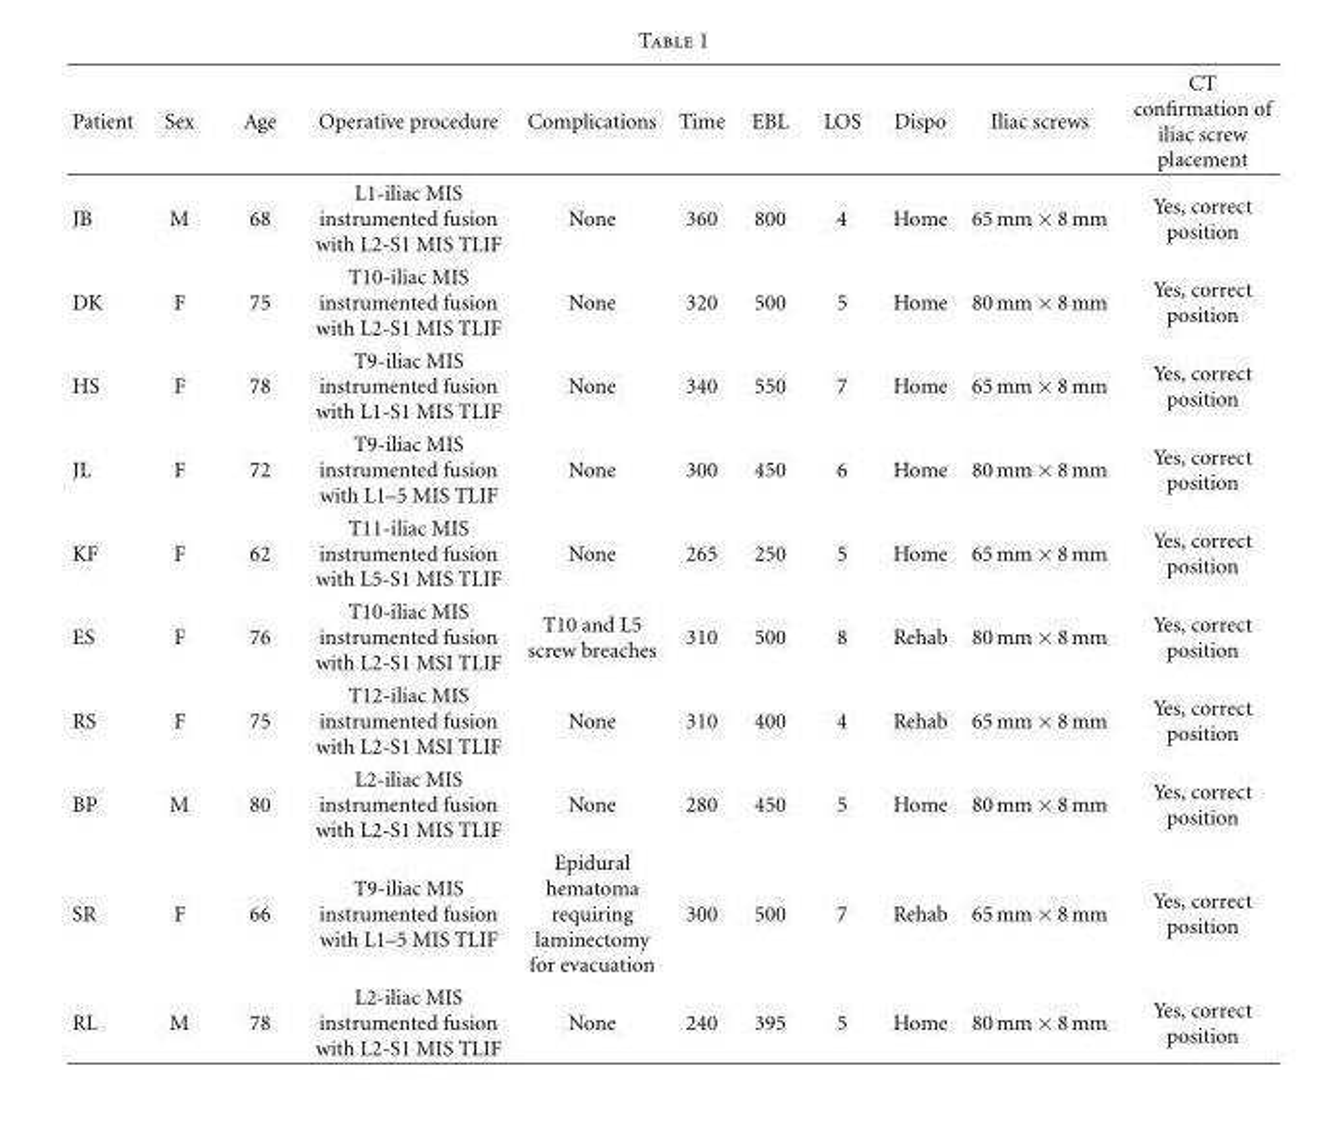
<table><thead><tr><td>Patient</td><td>Sex</td><td>Age</td><td>Operative procedure</td><td>Complications</td><td>Time</td><td>EBL</td><td>LOS</td><td>Dispo</td><td>Iliac screws</td><td>CT confirmation of iliac screw placement</td></tr></thead><tbody><tr><td>JB</td><td>M</td><td>68</td><td>L1-iliac MIS instrumented fusion with L2-S1 MIS TLIF</td><td>None</td><td>360</td><td>800</td><td>4</td><td>Home</td><td>65 mm × 8 mm</td><td>Yes, correct position</td></tr><tr><td>DK</td><td>F</td><td>75</td><td>T10-iliac MIS instrumented fusion with L2-S1 MIS TLIF</td><td>None</td><td>320</td><td>500</td><td>5</td><td>Home</td><td>80 mm × 8 mm</td><td>Yes, correct position</td></tr><tr><td>HS</td><td>F</td><td>78</td><td>T9-iliac MIS instrumented fusion with L1-S1 MIS TLIF</td><td>None</td><td>340</td><td>550</td><td>7</td><td>Home</td><td>65 mm × 8 mm</td><td>Yes, correct position</td></tr><tr><td>JL</td><td>F</td><td>72</td><td>T9-iliac MIS instrumented fusion with L1–5 MIS TLIF</td><td>None</td><td>300</td><td>450</td><td>6</td><td>Home</td><td>80 mm × 8 mm</td><td>Yes, correct position</td></tr><tr><td>KF</td><td>F</td><td>62</td><td>T11-iliac MIS instrumented fusion with L5-S1 MIS TLIF</td><td>None</td><td>265</td><td>250</td><td>5</td><td>Home</td><td>65 mm × 8 mm</td><td>Yes, correct position</td></tr><tr><td>ES</td><td>F</td><td>76</td><td>T10-iliac MIS instrumented fusion with L2-S1 MSI TLIF</td><td>T10 and L5 screw breaches</td><td>310</td><td>500</td><td>8</td><td>Rehab</td><td>80 mm × 8 mm</td><td>Yes, correct position</td></tr><tr><td>RS</td><td>F</td><td>75</td><td>T12-iliac MIS instrumented fusion with L2-S1 MSI TLIF</td><td>None</td><td>310</td><td>400</td><td>4</td><td>Rehab</td><td>65 mm × 8 mm</td><td>Yes, correct position</td></tr><tr><td>BP</td><td>M</td><td>80</td><td>L2-iliac MIS instrumented fusion with L2-S1 MIS TLIF</td><td>None</td><td>280</td><td>450</td><td>5</td><td>Home</td><td>80 mm × 8 mm</td><td>Yes, correct position</td></tr><tr><td>SR</td><td>F</td><td>66</td><td>T9-iliac MIS instrumented fusion with L1–5 MIS TLIF</td><td>Epidural hematoma requiring laminectomy for evacuation</td><td>300</td><td>500</td><td>7</td><td>Rehab</td><td>65 mm × 8 mm</td><td>Yes, correct position</td></tr><tr><td>RL</td><td>M</td><td>78</td><td>L2-iliac MIS instrumented fusion with L2-S1 MIS TLIF</td><td>None</td><td>240</td><td>395</td><td>5</td><td>Home</td><td>80 mm × 8 mm</td><td>Yes, correct position</td></tr></tbody></table>